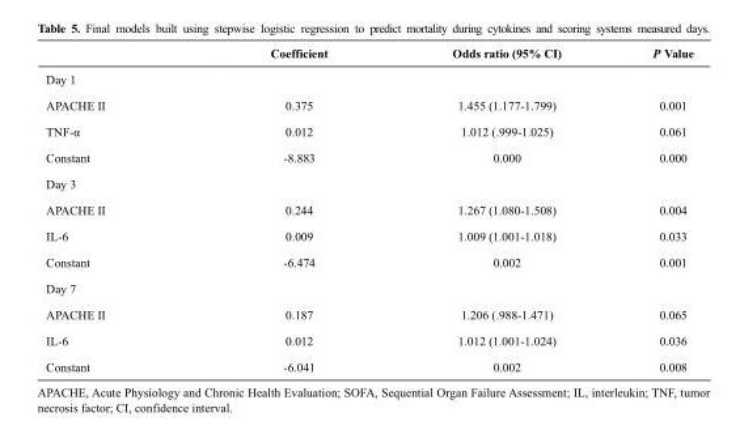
<table><thead><tr><td></td><td>Coefficient</td><td>Odds ratio (95% CI)</td><td>P Value</td></tr></thead><tbody><tr><td colspan="4">Day 1</td></tr><tr><td>APACHE II</td><td>0.375</td><td>1.455 (1.177-1.799)</td><td>0.001</td></tr><tr><td>TNF-α</td><td>0.012</td><td>1.012 (.999-1.025)</td><td>0.061</td></tr><tr><td>Constant</td><td>-8.883</td><td>0.000</td><td>0.000</td></tr><tr><td colspan="4">Day 3</td></tr><tr><td>APACHE II</td><td>0.244</td><td>1.267 (1.080-1.508)</td><td>0.004</td></tr><tr><td>IL-6</td><td>0.009</td><td>1.009 (1.001-1.018)</td><td>0.033</td></tr><tr><td>Constant</td><td>-6.474</td><td>0.002</td><td>0.001</td></tr><tr><td colspan="4">Day 7</td></tr><tr><td>APACHE II</td><td>0.187</td><td>1.206 (.988-1.471)</td><td>0.065</td></tr><tr><td>IL-6</td><td>0.012</td><td>1.012 (1.001-1.024)</td><td>0.036</td></tr><tr><td>Constant</td><td>-6.041</td><td>0.002</td><td>0.008</td></tr></tbody></table>